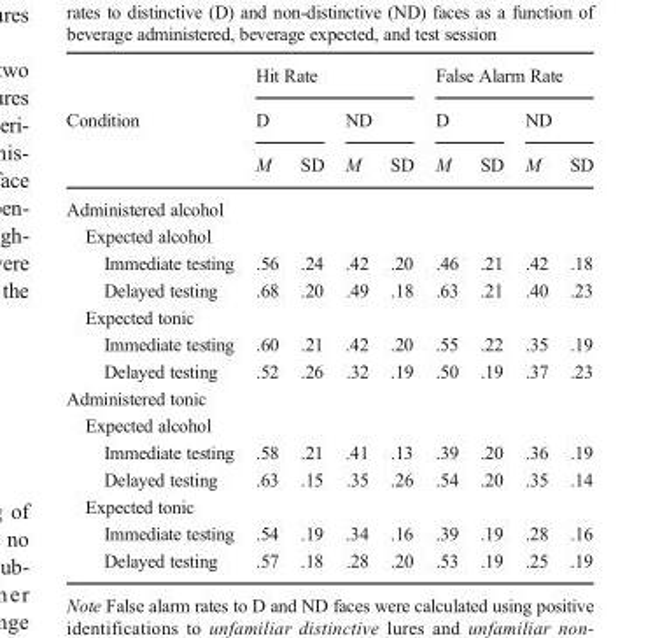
<table><thead><tr><td rowspan="3">Condition</td><td colspan="4">Hit Rate</td><td colspan="4">False Alarm Rate</td></tr><tr><td colspan="2">D</td><td colspan="2">ND</td><td colspan="2">D</td><td colspan="2">ND</td></tr><tr><td>M</td><td>SD</td><td>M</td><td>SD</td><td>M</td><td>SD</td><td>M</td><td>SD</td></tr></thead><tbody><tr><td colspan="9">Administered alcohol</td></tr><tr><td colspan="9">Expected alcohol</td></tr><tr><td>Immediate testing</td><td>.56</td><td>.24</td><td>.42</td><td>.20</td><td>.46</td><td>.21</td><td>.42</td><td>.18</td></tr><tr><td>Delayed testing</td><td>.68</td><td>.20</td><td>.49</td><td>.18</td><td>.63</td><td>.21</td><td>.40</td><td>.23</td></tr><tr><td colspan="9">Expected tonic</td></tr><tr><td>Immediate testing</td><td>.60</td><td>.21</td><td>.42</td><td>.20</td><td>.55</td><td>.22</td><td>.35</td><td>.19</td></tr><tr><td>Delayed testing</td><td>.52</td><td>.26</td><td>.32</td><td>.19</td><td>.50</td><td>.19</td><td>.37</td><td>.23</td></tr><tr><td colspan="9">Administered tonic</td></tr><tr><td colspan="9">Expected alcohol</td></tr><tr><td>Immediate testing</td><td>.58</td><td>.21</td><td>.41</td><td>.13</td><td>.39</td><td>.20</td><td>.36</td><td>.19</td></tr><tr><td>Delayed testing</td><td>.63</td><td>.15</td><td>.35</td><td>.26</td><td>.54</td><td>.20</td><td>.35</td><td>.14</td></tr><tr><td colspan="9">Expected tonic</td></tr><tr><td>Immediate testing</td><td>.54</td><td>.19</td><td>.34</td><td>.16</td><td>.39</td><td>.19</td><td>.28</td><td>.16</td></tr><tr><td>Delayed testing</td><td>.57</td><td>.18</td><td>.28</td><td>.20</td><td>.53</td><td>.19</td><td>.25</td><td>.19</td></tr></tbody></table>